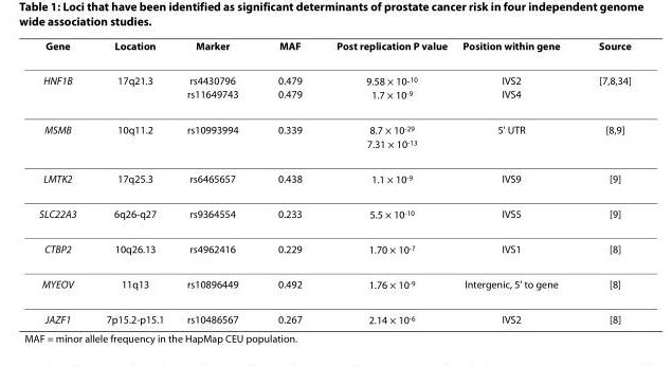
<table><thead><tr><td>Gene</td><td>Location</td><td>Marker</td><td>MAF</td><td>Post replication P value</td><td>Position within gene</td><td>Source</td></tr></thead><tbody><tr><td>HNF1B</td><td>17q21.3</td><td>rs4430796 rs11649743</td><td>0.479 0.479</td><td>9.58 × 10-<sup>10</sup> 1.7 × 10<sup>-9</sup></td><td>IVS2 IVS4</td><td>[7,8,34]</td></tr><tr><td>MSMB</td><td>10q11.2</td><td>rs10993994</td><td>0.339</td><td>8.7 × 10<sup>-29</sup> 7.31 × 10<sup>-13</sup></td><td>5&#x27; UTR</td><td>[8,9]</td></tr><tr><td>LMTK2</td><td>17q25.3</td><td>rs6465657</td><td>0.438</td><td>1.1 × 10<sup>-9</sup></td><td>IVS9</td><td>[9]</td></tr><tr><td>SLC22A3</td><td>6q26-q27</td><td>rs9364554</td><td>0.233</td><td>5.5 × 10<sup>-10</sup></td><td>IVS5</td><td>[9]</td></tr><tr><td>CTBP2</td><td>10q26.13</td><td>rs4962416</td><td>0.229</td><td>1.70 × 10<sup>-7</sup></td><td>IVS1</td><td>[8]</td></tr><tr><td>MYEOV</td><td>11q13</td><td>rs10896449</td><td>0.492</td><td>1.76 × 10<sup>-9</sup></td><td>Intergenic, 5&#x27; to gene</td><td>[8]</td></tr><tr><td>JAZF1</td><td>7p15.2-p15.1</td><td>rs10486567</td><td>0.267</td><td>2.14 × 10<sup>-6</sup></td><td>IVS2</td><td>[8]</td></tr></tbody></table>